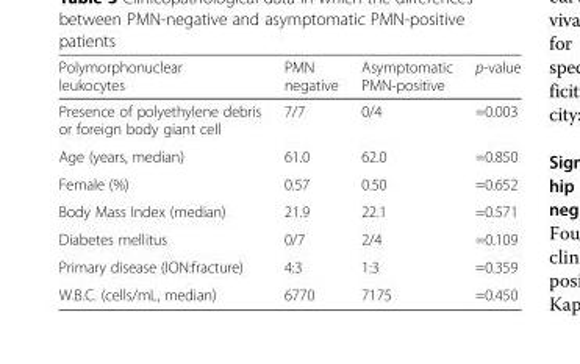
<table><thead><tr><td>Polymorphonuclear leukocytes</td><td>PMN negative</td><td>Asymptomatic PMN-positive</td><td>p-value</td></tr></thead><tbody><tr><td>Presence of polyethylene debris or foreign body giant cell</td><td>7/7</td><td>0/4</td><td>=0.003</td></tr><tr><td>Age (years, median)</td><td>61.0</td><td>62.0</td><td>=0.850</td></tr><tr><td>Female (%)</td><td>0.57</td><td>0.50</td><td>=0.652</td></tr><tr><td>Body Mass Index (median)</td><td>21.9</td><td>22.1</td><td>=0.571</td></tr><tr><td>Diabetes mellitus</td><td>0/7</td><td>2/4</td><td>=0.109</td></tr><tr><td>Primary disease (ION:fracture)</td><td>4:3</td><td>1:3</td><td>=0.359</td></tr><tr><td>W.B.C. (cells/mL, median)</td><td>6770</td><td>7175</td><td>=0.450</td></tr></tbody></table>